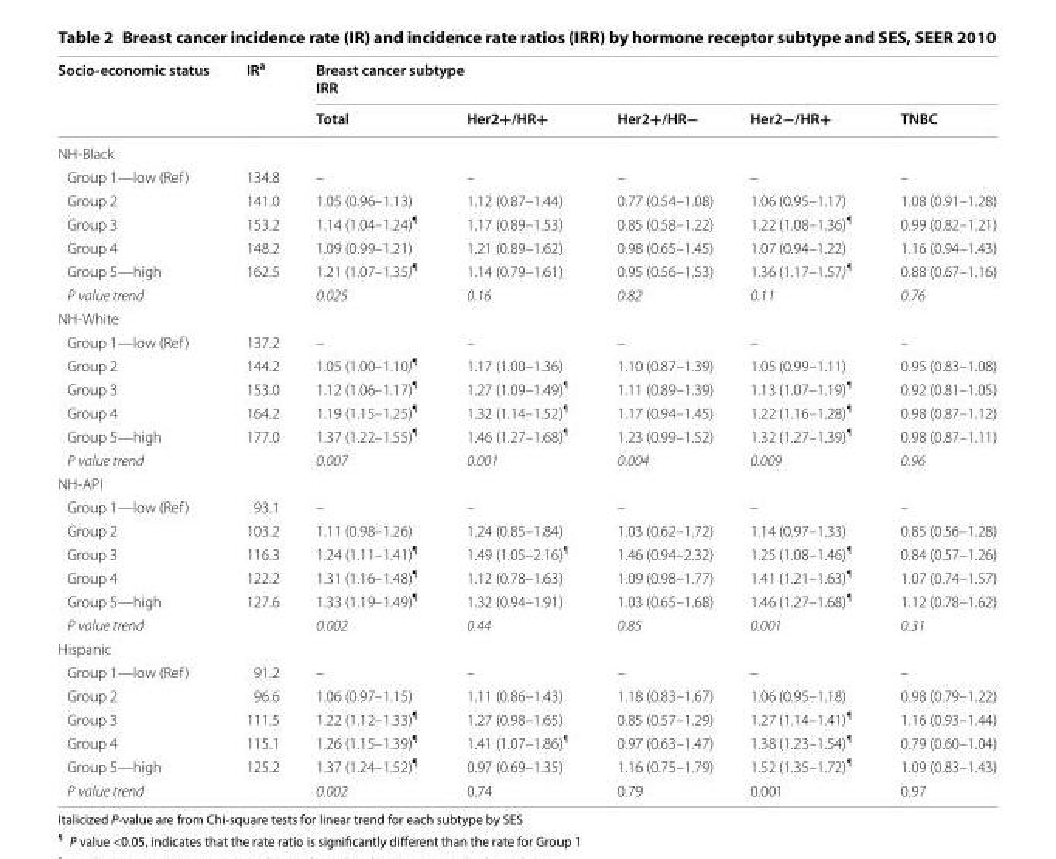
<table><thead><tr><td rowspan="2">Socio-economic status</td><td rowspan="2">IR<sup>a</sup></td><td colspan="5">Breast cancer subtype IRR</td></tr><tr><td>Total</td><td>Her2+/HR+</td><td>Her2+/HR−</td><td>Her2−/HR+</td><td>TNBC</td></tr></thead><tbody><tr><td colspan="7">NH-Black</td></tr><tr><td>Group 1—low (Ref)</td><td>134.8</td><td>–</td><td>–</td><td>–</td><td>–</td><td>–</td></tr><tr><td>Group 2</td><td>141.0</td><td>1.05 (0.96–1.13)</td><td>1.12 (0.87–1.44)</td><td>0.77 (0.54–1.08)</td><td>1.06 (0.95–1.17)</td><td>1.08 (0.91–1.28)</td></tr><tr><td>Group 3</td><td>153.2</td><td>1.14 (1.04–1.24)<sup>¶</sup></td><td>1.17 (0.89–1.53)</td><td>0.85 (0.58–1.22)</td><td>1.22 (1.08–1.36)<sup>¶</sup></td><td>0.99 (0.82–1.21)</td></tr><tr><td>Group 4</td><td>148.2</td><td>1.09 (0.99–1.21)</td><td>1.21 (0.89–1.62)</td><td>0.98 (0.65–1.45)</td><td>1.07 (0.94–1.22)</td><td>1.16 (0.94–1.43)</td></tr><tr><td>Group 5—high</td><td>162.5</td><td>1.21 (1.07–1.35)<sup>¶</sup></td><td>1.14 (0.79–1.61)</td><td>0.95 (0.56–1.53)</td><td>1.36 (1.17–1.57)<sup>¶</sup></td><td>0.88 (0.67–1.16)</td></tr><tr><td colspan="2">P value trend</td><td>0.025</td><td>0.16</td><td>0.82</td><td>0.11</td><td>0.76</td></tr><tr><td colspan="7">NH-White</td></tr><tr><td>Group 1—low (Ref)</td><td>137.2</td><td>–</td><td>–</td><td>–</td><td>–</td><td>–</td></tr><tr><td>Group 2</td><td>144.2</td><td>1.05 (1.00–1.10)<sup>¶</sup></td><td>1.17 (1.00–1.36)</td><td>1.10 (0.87–1.39)</td><td>1.05 (0.99–1.11)</td><td>0.95 (0.83–1.08)</td></tr><tr><td>Group 3</td><td>153.0</td><td>1.12 (1.06–1.17)<sup>¶</sup></td><td>1.27 (1.09–1.49)<sup>¶</sup></td><td>1.11 (0.89–1.39)</td><td>1.13 (1.07–1.19)<sup>¶</sup></td><td>0.92 (0.81–1.05)</td></tr><tr><td>Group 4</td><td>164.2</td><td>1.19 (1.15–1.25)<sup>¶</sup></td><td>1.32 (1.14–1.52)<sup>¶</sup></td><td>1.17 (0.94–1.45)</td><td>1.22 (1.16–1.28)<sup>¶</sup></td><td>0.98 (0.87–1.12)</td></tr><tr><td>Group 5—high</td><td>177.0</td><td>1.37 (1.22–1.55)<sup>¶</sup></td><td>1.46 (1.27–1.68)<sup>¶</sup></td><td>1.23 (0.99–1.52)</td><td>1.32 (1.27–1.39)<sup>¶</sup></td><td>0.98 (0.87–1.11)</td></tr><tr><td colspan="2">P value trend</td><td>0.007</td><td>0.001</td><td>0.004</td><td>0.009</td><td>0.96</td></tr><tr><td colspan="7">NH-API</td></tr><tr><td>Group 1—low (Ref)</td><td>93.1</td><td>–</td><td>–</td><td>–</td><td>–</td><td>–</td></tr><tr><td>Group 2</td><td>103.2</td><td>1.11 (0.98–1.26)</td><td>1.24 (0.85–1.84)</td><td>1.03 (0.62–1.72)</td><td>1.14 (0.97–1.33)</td><td>0.85 (0.56–1.28)</td></tr><tr><td>Group 3</td><td>116.3</td><td>1.24 (1.11–1.41)<sup>¶</sup></td><td>1.49 (1.05–2.16)<sup>¶</sup></td><td>1.46 (0.94–2.32)</td><td>1.25 (1.08–1.46)<sup>¶</sup></td><td>0.84 (0.57–1.26)</td></tr><tr><td>Group 4</td><td>122.2</td><td>1.31 (1.16–1.48)<sup>¶</sup></td><td>1.12 (0.78–1.63)</td><td>1.09 (0.98–1.77)</td><td>1.41 (1.21–1.63)<sup>¶</sup></td><td>1.07 (0.74–1.57)</td></tr><tr><td>Group 5—high</td><td>127.6</td><td>1.33 (1.19–1.49)<sup>¶</sup></td><td>1.32 (0.94–1.91)</td><td>1.03 (0.65–1.68)</td><td>1.46 (1.27–1.68)<sup>¶</sup></td><td>1.12 (0.78–1.62)</td></tr><tr><td colspan="2">P value trend</td><td>0.002</td><td>0.44</td><td>0.85</td><td>0.001</td><td>0.31</td></tr><tr><td colspan="7">Hispanic</td></tr><tr><td>Group 1—low (Ref)</td><td>91.2</td><td>–</td><td>–</td><td>–</td><td>–</td><td>–</td></tr><tr><td>Group 2</td><td>96.6</td><td>1.06 (0.97–1.15)</td><td>1.11 (0.86–1.43)</td><td>1.18 (0.83–1.67)</td><td>1.06 (0.95–1.18)</td><td>0.98 (0.79–1.22)</td></tr><tr><td>Group 3</td><td>111.5</td><td>1.22 (1.12–1.33)<sup>¶</sup></td><td>1.27 (0.98–1.65)</td><td>0.85 (0.57–1.29)</td><td>1.27 (1.14–1.41)<sup>¶</sup></td><td>1.16 (0.93–1.44)</td></tr><tr><td>Group 4</td><td>115.1</td><td>1.26 (1.15–1.39)<sup>¶</sup></td><td>1.41 (1.07–1.86)<sup>¶</sup></td><td>0.97 (0.63–1.47)</td><td>1.38 (1.23–1.54)<sup>¶</sup></td><td>0.79 (0.60–1.04)</td></tr><tr><td>Group 5—high</td><td>125.2</td><td>1.37 (1.24–1.52)<sup>¶</sup></td><td>0.97 (0.69–1.35)</td><td>1.16 (0.75–1.79)</td><td>1.52 (1.35–1.72)<sup>¶</sup></td><td>1.09 (0.83–1.43)</td></tr><tr><td colspan="2">P value trend</td><td>0.002</td><td>0.74</td><td>0.79</td><td>0.001</td><td>0.97</td></tr></tbody></table>